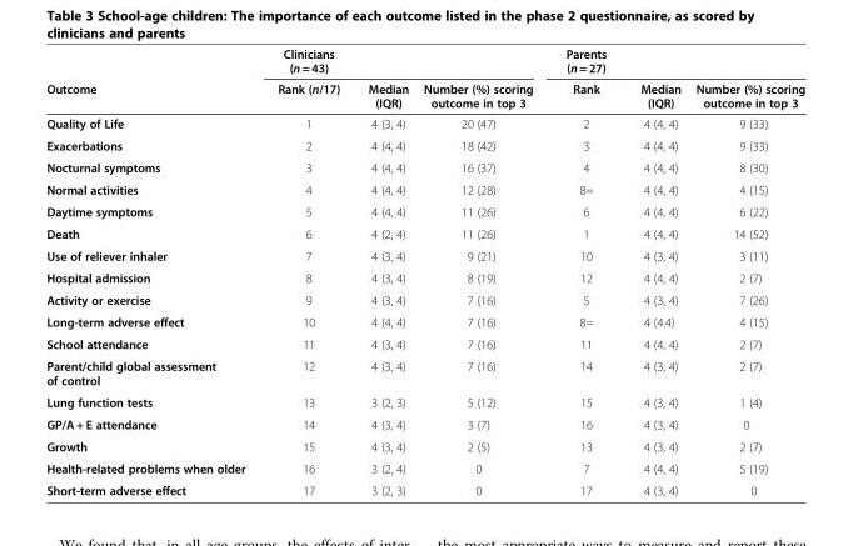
<table><thead><tr><td></td><td>Clinicians (n = 43)</td><td></td><td></td><td>Parents (n = 27)</td><td></td><td></td></tr></thead><tbody><tr><td>Outcome</td><td>Rank (n/17)</td><td>Median (IQR)</td><td>Number (%) scoring outcome in top 3</td><td>Rank</td><td>Median (IQR)</td><td>Number (%) scoring outcome in top 3</td></tr><tr><td>Quality of Life</td><td>1</td><td>4 (3, 4)</td><td>20 (47)</td><td>2</td><td>4 (4, 4)</td><td>9 (33)</td></tr><tr><td>Exacerbations</td><td>2</td><td>4 (4, 4)</td><td>18 (42)</td><td>3</td><td>4 (4, 4)</td><td>9 (33)</td></tr><tr><td>Nocturnal symptoms</td><td>3</td><td>4 (4, 4)</td><td>16 (37)</td><td>4</td><td>4 (4, 4)</td><td>8 (30)</td></tr><tr><td>Normal activities</td><td>4</td><td>4 (4, 4)</td><td>12 (28)</td><td>8=</td><td>4 (4, 4)</td><td>4 (15)</td></tr><tr><td>Daytime symptoms</td><td>5</td><td>4 (4, 4)</td><td>11 (26)</td><td>6</td><td>4 (4, 4)</td><td>6 (22)</td></tr><tr><td>Death</td><td>6</td><td>4 (2, 4)</td><td>11 (26)</td><td>1</td><td>4 (4, 4)</td><td>14 (52)</td></tr><tr><td>Use of reliever inhaler</td><td>7</td><td>4 (3, 4)</td><td>9 (21)</td><td>10</td><td>4 (3, 4)</td><td>3 (11)</td></tr><tr><td>Hospital admission</td><td>8</td><td>4 (3, 4)</td><td>8 (19)</td><td>12</td><td>4 (4, 4)</td><td>2 (7)</td></tr><tr><td>Activity or exercise</td><td>9</td><td>4 (3, 4)</td><td>7 (16)</td><td>5</td><td>4 (3, 4)</td><td>7 (26)</td></tr><tr><td>Long-term adverse effect</td><td>10</td><td>4 (4, 4)</td><td>7 (16)</td><td>8=</td><td>4 (4.4)</td><td>4 (15)</td></tr><tr><td>School attendance</td><td>11</td><td>4 (3, 4)</td><td>7 (16)</td><td>11</td><td>4 (4, 4)</td><td>2 (7)</td></tr><tr><td>Parent/child global assessment of control</td><td>12</td><td>4 (3, 4)</td><td>7 (16)</td><td>14</td><td>4 (3, 4)</td><td>2 (7)</td></tr><tr><td>Lung function tests</td><td>13</td><td>3 (2, 3)</td><td>5 (12)</td><td>15</td><td>4 (3, 4)</td><td>1 (4)</td></tr><tr><td>GP/A + E attendance</td><td>14</td><td>4 (3, 4)</td><td>3 (7)</td><td>16</td><td>4 (3, 4)</td><td>0</td></tr><tr><td>Growth</td><td>15</td><td>4 (3, 4)</td><td>2 (5)</td><td>13</td><td>4 (3, 4)</td><td>2 (7)</td></tr><tr><td>Health-related problems when older</td><td>16</td><td>3 (2, 4)</td><td>0</td><td>7</td><td>4 (4, 4)</td><td>5 (19)</td></tr><tr><td>Short-term adverse effect</td><td>17</td><td>3 (2, 3)</td><td>0</td><td>17</td><td>4 (3, 4)</td><td>0</td></tr></tbody></table>